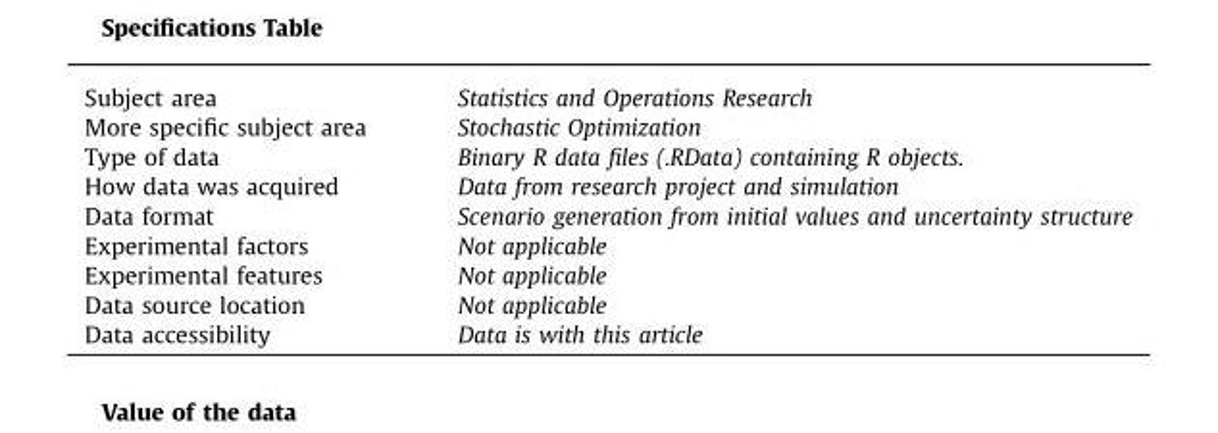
<table><tbody><tr><td>Subject area</td><td>Statistics and Operations Research</td></tr><tr><td>More specific subject area</td><td>Stochastic Optimization</td></tr><tr><td>Type of data</td><td>Binary R data files (.RData) containing R objects.</td></tr><tr><td>How data was acquired</td><td>Data from research project and simulation</td></tr><tr><td>Data format</td><td>Scenario generation from initial values and uncertainty structure</td></tr><tr><td>Experimental factors</td><td>Not applicable</td></tr><tr><td>Experimental features</td><td>Not applicable</td></tr><tr><td>Data source location</td><td>Not applicable</td></tr><tr><td>Data accessibility</td><td>Data is with this article</td></tr></tbody></table>